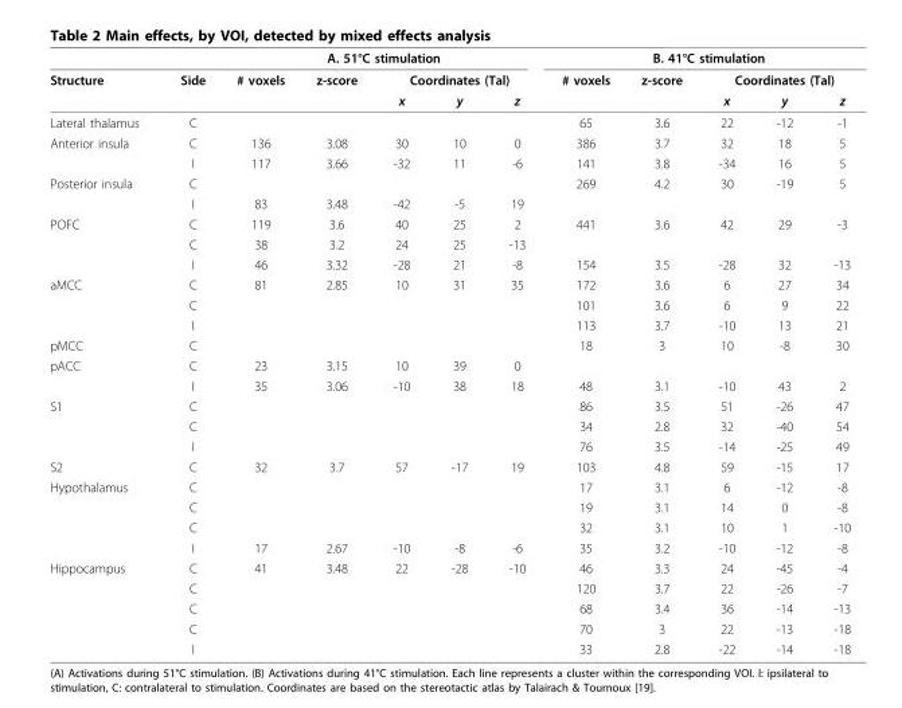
<table><thead><tr><td rowspan="3">Structure</td><td rowspan="3">Side</td><td colspan="5">A. 51°C stimulation</td><td colspan="5">B. 41°C stimulation</td></tr><tr><td rowspan="2"># voxels</td><td rowspan="2">z-score</td><td colspan="3">Coordinates (Tal)</td><td rowspan="2"># voxels</td><td rowspan="2">z-score</td><td colspan="3">Coordinates (Tal)</td></tr><tr><td>x</td><td>y</td><td>z</td><td>x</td><td>y</td><td>z</td></tr></thead><tbody><tr><td>Lateral thalamus</td><td>C</td><td></td><td></td><td></td><td></td><td></td><td>65</td><td>3.6</td><td>22</td><td>-12</td><td>-1</td></tr><tr><td rowspan="2">Anterior insula</td><td>C</td><td>136</td><td>3.08</td><td>30</td><td>10</td><td>0</td><td>386</td><td>3.7</td><td>32</td><td>18</td><td>5</td></tr><tr><td>I</td><td>117</td><td>3.66</td><td>-32</td><td>11</td><td>-6</td><td>141</td><td>3.8</td><td>-34</td><td>16</td><td>5</td></tr><tr><td rowspan="2">Posterior insula</td><td>C</td><td></td><td></td><td></td><td></td><td></td><td>269</td><td>4.2</td><td>30</td><td>-19</td><td>5</td></tr><tr><td>I</td><td>83</td><td>3.48</td><td>-42</td><td>-5</td><td>19</td><td></td><td></td><td></td><td></td><td></td></tr><tr><td rowspan="3">POFC</td><td>C</td><td>119</td><td>3.6</td><td>40</td><td>25</td><td>2</td><td>441</td><td>3.6</td><td>42</td><td>29</td><td>-3</td></tr><tr><td>C</td><td>38</td><td>3.2</td><td>24</td><td>25</td><td>-13</td><td></td><td></td><td></td><td></td><td></td></tr><tr><td>I</td><td>46</td><td>3.32</td><td>-28</td><td>21</td><td>-8</td><td>154</td><td>3.5</td><td>-28</td><td>32</td><td>-13</td></tr><tr><td rowspan="3">aMCC</td><td>C</td><td>81</td><td>2.85</td><td>10</td><td>31</td><td>35</td><td>172</td><td>3.6</td><td>6</td><td>27</td><td>34</td></tr><tr><td>C</td><td></td><td></td><td></td><td></td><td></td><td>101</td><td>3.6</td><td>6</td><td>9</td><td>22</td></tr><tr><td>I</td><td></td><td></td><td></td><td></td><td></td><td>113</td><td>3.7</td><td>-10</td><td>13</td><td>21</td></tr><tr><td>pMCC</td><td>C</td><td></td><td></td><td></td><td></td><td></td><td>18</td><td>3</td><td>10</td><td>-8</td><td>30</td></tr><tr><td rowspan="2">pACC</td><td>C</td><td>23</td><td>3.15</td><td>10</td><td>39</td><td>0</td><td></td><td></td><td></td><td></td><td></td></tr><tr><td>I</td><td>35</td><td>3.06</td><td>-10</td><td>38</td><td>18</td><td>48</td><td>3.1</td><td>-10</td><td>43</td><td>2</td></tr><tr><td rowspan="3">S1</td><td>C</td><td></td><td></td><td></td><td></td><td></td><td>86</td><td>3.5</td><td>51</td><td>-26</td><td>47</td></tr><tr><td>C</td><td></td><td></td><td></td><td></td><td></td><td>34</td><td>2.8</td><td>32</td><td>-40</td><td>54</td></tr><tr><td>I</td><td></td><td></td><td></td><td></td><td></td><td>76</td><td>3.5</td><td>-14</td><td>-25</td><td>49</td></tr><tr><td>S2</td><td>C</td><td>32</td><td>3.7</td><td>57</td><td>-17</td><td>19</td><td>103</td><td>4.8</td><td>59</td><td>-15</td><td>17</td></tr><tr><td rowspan="4">Hypothalamus</td><td>C</td><td></td><td></td><td></td><td></td><td></td><td>17</td><td>3.1</td><td>6</td><td>-12</td><td>-8</td></tr><tr><td>C</td><td></td><td></td><td></td><td></td><td></td><td>19</td><td>3.1</td><td>14</td><td>0</td><td>-8</td></tr><tr><td>C</td><td></td><td></td><td></td><td></td><td></td><td>32</td><td>3.1</td><td>10</td><td>1</td><td>-10</td></tr><tr><td>I</td><td>17</td><td>2.67</td><td>-10</td><td>-8</td><td>-6</td><td>35</td><td>3.2</td><td>-10</td><td>-12</td><td>-8</td></tr><tr><td rowspan="5">Hippocampus</td><td>C</td><td>41</td><td>3.48</td><td>22</td><td>-28</td><td>-10</td><td>46</td><td>3.3</td><td>24</td><td>-45</td><td>-4</td></tr><tr><td>C</td><td></td><td></td><td></td><td></td><td></td><td>120</td><td>3.7</td><td>22</td><td>-26</td><td>-7</td></tr><tr><td>C</td><td></td><td></td><td></td><td></td><td></td><td>68</td><td>3.4</td><td>36</td><td>-14</td><td>-13</td></tr><tr><td>C</td><td></td><td></td><td></td><td></td><td></td><td>70</td><td>3</td><td>22</td><td>-13</td><td>-18</td></tr><tr><td>I</td><td></td><td></td><td></td><td></td><td></td><td>33</td><td>2.8</td><td>-22</td><td>-14</td><td>-18</td></tr></tbody></table>